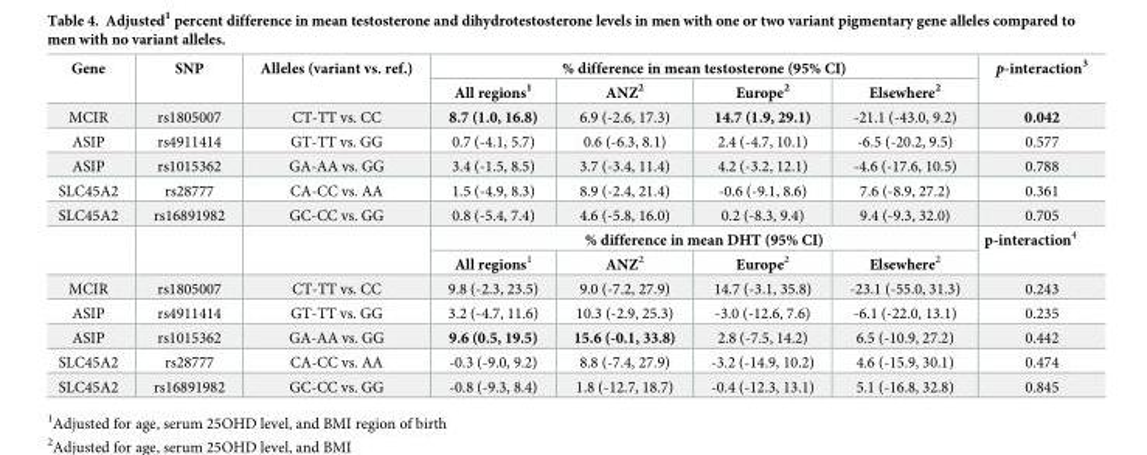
<table><thead><tr><td rowspan="2">Gene</td><td rowspan="2">SNP</td><td rowspan="2">Alleles (variant vs. ref.)</td><td colspan="4">% difference in mean testosterone (95% CI)</td><td rowspan="2">p-interaction<sup>3</sup></td></tr><tr><td>All regions<sup>1</sup></td><td>ANZ<sup>2</sup></td><td>Europe<sup>2</sup></td><td>Elsewhere<sup>2</sup></td></tr></thead><tbody><tr><td>MCIR</td><td>rs1805007</td><td>CT-TT vs. CC</td><td>8.7 (1.0, 16.8)</td><td>6.9 (-2.6, 17.3)</td><td>14.7 (1.9, 29.1)</td><td>-21.1 (-43.0, 9.2)</td><td>0.042</td></tr><tr><td>ASIP</td><td>rs4911414</td><td>GT-TT vs. GG</td><td>0.7 (-4.1, 5.7)</td><td>0.6 (-6.3, 8.1)</td><td>2.4 (-4.7, 10.1)</td><td>-6.5 (-20.2, 9.5)</td><td>0.577</td></tr><tr><td>ASIP</td><td>rs1015362</td><td>GA-AA vs. GG</td><td>3.4 (-1.5, 8.5)</td><td>3.7 (-3.4, 11.4)</td><td>4.2 (-3.2, 12.1)</td><td>-4.6 (-17.6, 10.5)</td><td>0.788</td></tr><tr><td>SLC45A2</td><td>rs28777</td><td>CA-CC vs. AA</td><td>1.5 (-4.9, 8.3)</td><td>8.9 (-2.4, 21.4)</td><td>-0.6 (-9.1, 8.6)</td><td>7.6 (-8.9, 27.2)</td><td>0.361</td></tr><tr><td rowspan="3">SLC45A2</td><td>rs16891982</td><td>GC-CC vs. GG</td><td>0.8 (-5.4, 7.4)</td><td>4.6 (-5.8, 16.0)</td><td>0.2 (-8.3, 9.4)</td><td>9.4 (-9.3, 32.0)</td><td>0.705</td></tr><tr><td rowspan="2"></td><td rowspan="2"></td><td colspan="4">% difference in mean DHT (95% CI)</td><td rowspan="2">p-interaction<sup>4</sup></td></tr><tr><td>All regions<sup>1</sup></td><td>ANZ<sup>2</sup></td><td>Europe<sup>2</sup></td><td>Elsewhere<sup>2</sup></td></tr><tr><td>MCIR</td><td>rs1805007</td><td>CT-TT vs. CC</td><td>9.8 (-2.3, 23.5)</td><td>9.0 (-7.2, 27.9)</td><td>14.7 (-3.1, 35.8)</td><td>-23.1 (-55.0, 31.3)</td><td>0.243</td></tr><tr><td>ASIP</td><td>rs4911414</td><td>GT-TT vs. GG</td><td>3.2 (-4.7, 11.6)</td><td>10.3 (-2.9, 25.3)</td><td>-3.0 (-12.6, 7.6)</td><td>-6.1 (-22.0, 13.1)</td><td>0.235</td></tr><tr><td>ASIP</td><td>rs1015362</td><td>GA-AA vs. GG</td><td>9.6 (0.5, 19.5)</td><td>15.6 (-0.1, 33.8)</td><td>2.8 (-7.5, 14.2)</td><td>6.5 (-10.9, 27.2)</td><td>0.442</td></tr><tr><td>SLC45A2</td><td>rs28777</td><td>CA-CC vs. AA</td><td>-0.3 (-9.0, 9.2)</td><td>8.8 (-7.4, 27.9)</td><td>-3.2 (-14.9, 10.2)</td><td>4.6 (-15.9, 30.1)</td><td>0.474</td></tr><tr><td>SLC45A2</td><td>rs16891982</td><td>GC-CC vs. GG</td><td>-0.8 (-9.3, 8.4)</td><td>1.8 (-12.7, 18.7)</td><td>-0.4 (-12.3, 13.1)</td><td>5.1 (-16.8, 32.8)</td><td>0.845</td></tr></tbody></table>